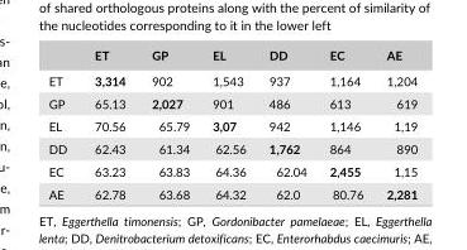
<table><thead><tr><td></td><td>ET</td><td>GP</td><td>EL</td><td>DD</td><td>EC</td><td>AE</td></tr></thead><tbody><tr><td>ET</td><td>3,314</td><td>902</td><td>1,543</td><td>937</td><td>1,164</td><td>1,204</td></tr><tr><td>GP</td><td>65.13</td><td>2,027</td><td>901</td><td>486</td><td>613</td><td>619</td></tr><tr><td>EL</td><td>70.56</td><td>65.79</td><td>3,07</td><td>942</td><td>1,146</td><td>1,19</td></tr><tr><td>DD</td><td>62.43</td><td>61.34</td><td>62.56</td><td>1,762</td><td>864</td><td>890</td></tr><tr><td>EC</td><td>63.23</td><td>63.83</td><td>64.36</td><td>62.04</td><td>2,455</td><td>1,15</td></tr><tr><td>AE</td><td>62.78</td><td>63.68</td><td>64.32</td><td>62.0</td><td>80.76</td><td>2,281</td></tr></tbody></table>